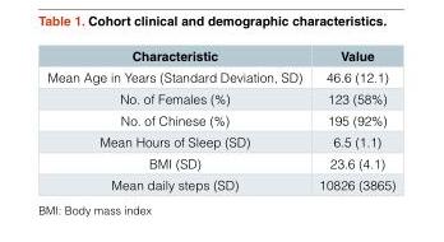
<table><thead><tr><td>Characteristic</td><td>Value</td></tr></thead><tbody><tr><td>Mean Age in Years (Standard Deviation, SD)</td><td>46.6 (12.1)</td></tr><tr><td>No. of Females (%)</td><td>123 (58%)</td></tr><tr><td>No. of Chinese (%)</td><td>195 (92%)</td></tr><tr><td>Mean Hours of Sleep (SD)</td><td>6.5 (1.1)</td></tr><tr><td>BMI (SD)</td><td>23.6 (4.1)</td></tr><tr><td>Mean daily steps (SD)</td><td>10826 (3865)</td></tr></tbody></table>